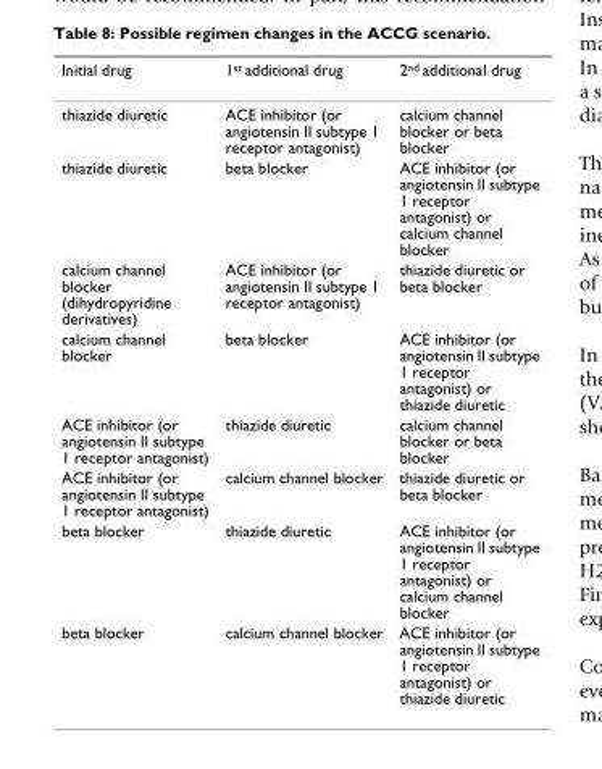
<table><thead><tr><td>Initial drug</td><td>1<sup>st</sup> additional drug</td><td>2<sup>nd</sup> additional drug</td></tr></thead><tbody><tr><td>thiazide diuretic</td><td>ACE inhibitor (or angiotensin II subtype 1 receptor antagonist)</td><td>calcium channel blocker or beta blocker</td></tr><tr><td>thiazide diuretic</td><td>beta blocker</td><td>ACE inhibitor (or angiotensin II subtype 1 receptor antagonist) or calcium channel blocker</td></tr><tr><td>calcium channel blocker (dihydropyridine derivatives)</td><td>ACE inhibitor (or angiotensin II subtype 1 receptor antagonist)</td><td>thiazide diuretic or beta blocker</td></tr><tr><td>calcium channel blocker</td><td>beta blocker</td><td>ACE inhibitor (or angiotensin II subtype 1 receptor antagonist) or thiazide diuretic</td></tr><tr><td>ACE inhibitor (or angiotensin II subtype 1 receptor antagonist)</td><td>thiazide diuretic</td><td>calcium channel blocker or beta blocker</td></tr><tr><td>ACE inhibitor (or angiotensin II subtype 1 receptor antagonist)</td><td>calcium channel blocker</td><td>thiazide diuretic or beta blocker</td></tr><tr><td>beta blocker</td><td>thiazide diuretic</td><td>ACE inhibitor (or angiotensin II subtype 1 receptor antagonist) or calcium channel blocker</td></tr><tr><td>beta blocker</td><td>calcium channel blocker</td><td>ACE inhibitor (or angiotensin II subtype 1 receptor antagonist) or thiazide diuretic</td></tr></tbody></table>